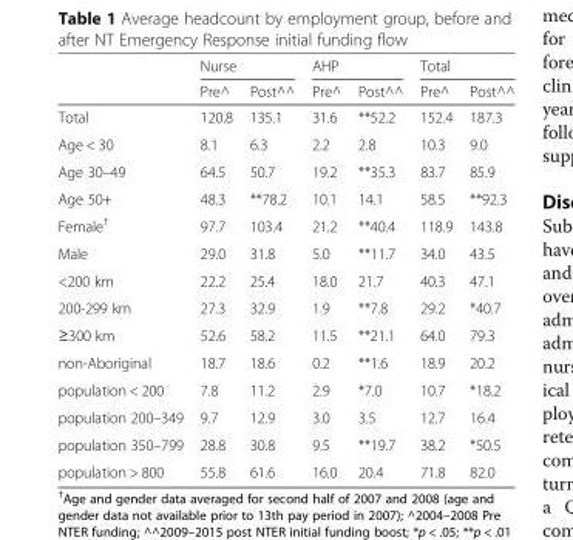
<table><thead><tr><td rowspan="2"></td><td colspan="2">Nurse</td><td colspan="2">AHP</td><td colspan="2">Total</td></tr><tr><td>Pre^</td><td>Post^^</td><td>Pre^</td><td>Post^^</td><td>Pre^</td><td>Post^^</td></tr></thead><tbody><tr><td>Total</td><td>120.8</td><td>135.1</td><td>31.6</td><td>**52.2</td><td>152.4</td><td>187.3</td></tr><tr><td>Age &lt; 30</td><td>8.1</td><td>6.3</td><td>2.2</td><td>2.8</td><td>10.3</td><td>9.0</td></tr><tr><td>Age 30–49</td><td>64.5</td><td>50.7</td><td>19.2</td><td>**35.3</td><td>83.7</td><td>85.9</td></tr><tr><td>Age 50+</td><td>48.3</td><td>**78.2</td><td>10.1</td><td>14.1</td><td>58.5</td><td>**92.3</td></tr><tr><td>Female<sup>†</sup></td><td>97.7</td><td>103.4</td><td>21.2</td><td>**40.4</td><td>118.9</td><td>143.8</td></tr><tr><td>Male</td><td>29.0</td><td>31.8</td><td>5.0</td><td>**11.7</td><td>34.0</td><td>43.5</td></tr><tr><td>&lt;200 km</td><td>22.2</td><td>25.4</td><td>18.0</td><td>21.7</td><td>40.3</td><td>47.1</td></tr><tr><td>200-299 km</td><td>27.3</td><td>32.9</td><td>1.9</td><td>**7.8</td><td>29.2</td><td>*40.7</td></tr><tr><td>≥300 km</td><td>52.6</td><td>58.2</td><td>11.5</td><td>**21.1</td><td>64.0</td><td>79.3</td></tr><tr><td>non-Aboriginal</td><td>18.7</td><td>18.6</td><td>0.2</td><td>**1.6</td><td>18.9</td><td>20.2</td></tr><tr><td>population &lt; 200</td><td>7.8</td><td>11.2</td><td>2.9</td><td>*7.0</td><td>10.7</td><td>*18.2</td></tr><tr><td>population 200–349</td><td>9.7</td><td>12.9</td><td>3.0</td><td>3.5</td><td>12.7</td><td>16.4</td></tr><tr><td>population 350–799</td><td>28.8</td><td>30.8</td><td>9.5</td><td>**19.7</td><td>38.2</td><td>*50.5</td></tr><tr><td>population &gt; 800</td><td>55.8</td><td>61.6</td><td>16.0</td><td>20.4</td><td>71.8</td><td>82.0</td></tr></tbody></table>